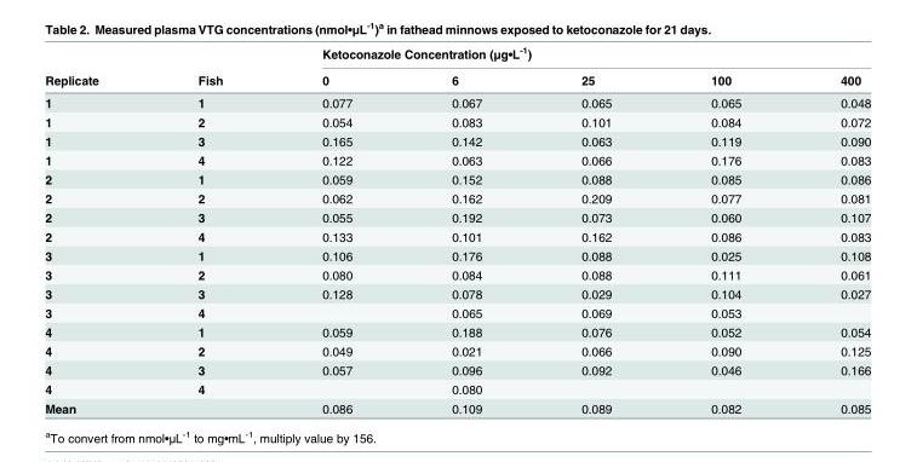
<table><thead><tr><td rowspan="2">Replicate</td><td rowspan="2">Fish</td><td colspan="5">Ketoconazole Concentration (μg•L<sup>-1</sup>)</td></tr><tr><td>0</td><td>6</td><td>25</td><td>100</td><td>400</td></tr></thead><tbody><tr><td>1</td><td>1</td><td>0.077</td><td>0.067</td><td>0.065</td><td>0.065</td><td>0.048</td></tr><tr><td>1</td><td>2</td><td>0.054</td><td>0.083</td><td>0.101</td><td>0.084</td><td>0.072</td></tr><tr><td>1</td><td>3</td><td>0.165</td><td>0.142</td><td>0.063</td><td>0.119</td><td>0.090</td></tr><tr><td>1</td><td>4</td><td>0.122</td><td>0.063</td><td>0.066</td><td>0.176</td><td>0.083</td></tr><tr><td>2</td><td>1</td><td>0.059</td><td>0.152</td><td>0.088</td><td>0.085</td><td>0.086</td></tr><tr><td>2</td><td>2</td><td>0.062</td><td>0.162</td><td>0.209</td><td>0.077</td><td>0.081</td></tr><tr><td>2</td><td>3</td><td>0.055</td><td>0.192</td><td>0.073</td><td>0.060</td><td>0.107</td></tr><tr><td>2</td><td>4</td><td>0.133</td><td>0.101</td><td>0.162</td><td>0.086</td><td>0.083</td></tr><tr><td>3</td><td>1</td><td>0.106</td><td>0.176</td><td>0.088</td><td>0.025</td><td>0.108</td></tr><tr><td>3</td><td>2</td><td>0.080</td><td>0.084</td><td>0.088</td><td>0.111</td><td>0.061</td></tr><tr><td>3</td><td>3</td><td>0.128</td><td>0.078</td><td>0.029</td><td>0.104</td><td>0.027</td></tr><tr><td>3</td><td>4</td><td></td><td>0.065</td><td>0.069</td><td>0.053</td><td></td></tr><tr><td>4</td><td>1</td><td>0.059</td><td>0.188</td><td>0.076</td><td>0.052</td><td>0.054</td></tr><tr><td>4</td><td>2</td><td>0.049</td><td>0.021</td><td>0.066</td><td>0.090</td><td>0.125</td></tr><tr><td>4</td><td>3</td><td>0.057</td><td>0.096</td><td>0.092</td><td>0.046</td><td>0.166</td></tr><tr><td>4</td><td>4</td><td></td><td>0.080</td><td></td><td></td><td></td></tr><tr><td>Mean</td><td></td><td>0.086</td><td>0.109</td><td>0.089</td><td>0.082</td><td>0.085</td></tr></tbody></table>